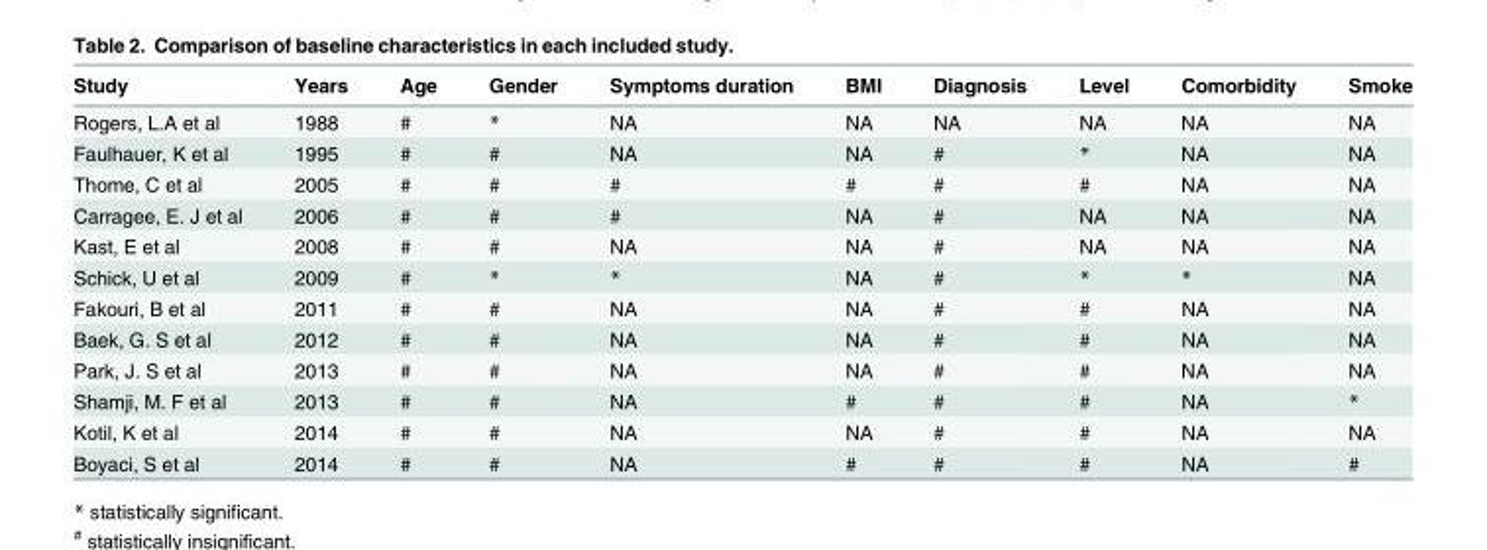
<table><thead><tr><td>Study</td><td>Years</td><td>Age</td><td>Gender</td><td>Symptoms duration</td><td>BMI</td><td>Diagnosis</td><td>Level</td><td>Comorbidity</td><td>Smoke</td></tr></thead><tbody><tr><td>Rogers, L.A et al</td><td>1988</td><td>#</td><td>*</td><td>NA</td><td>NA</td><td>NA</td><td>NA</td><td>NA</td><td>NA</td></tr><tr><td>Faulhauer, K et al</td><td>1995</td><td>#</td><td>#</td><td>NA</td><td>NA</td><td>#</td><td>*</td><td>NA</td><td>NA</td></tr><tr><td>Thome, C et al</td><td>2005</td><td>#</td><td>#</td><td>#</td><td>#</td><td>#</td><td>#</td><td>NA</td><td>NA</td></tr><tr><td>Carragee, E. J et al</td><td>2006</td><td>#</td><td>#</td><td>#</td><td>NA</td><td>#</td><td>NA</td><td>NA</td><td>NA</td></tr><tr><td>Kast, E et al</td><td>2008</td><td>#</td><td>#</td><td>NA</td><td>NA</td><td>#</td><td>NA</td><td>NA</td><td>NA</td></tr><tr><td>Schick, U et al</td><td>2009</td><td>#</td><td>*</td><td>*</td><td>NA</td><td>#</td><td>*</td><td>*</td><td>NA</td></tr><tr><td>Fakouri, B et al</td><td>2011</td><td>#</td><td>#</td><td>NA</td><td>NA</td><td>#</td><td>#</td><td>NA</td><td>NA</td></tr><tr><td>Baek, G. S et al</td><td>2012</td><td>#</td><td>#</td><td>NA</td><td>NA</td><td>#</td><td>#</td><td>NA</td><td>NA</td></tr><tr><td>Park, J. S et al</td><td>2013</td><td>#</td><td>#</td><td>NA</td><td>NA</td><td>#</td><td>#</td><td>NA</td><td>NA</td></tr><tr><td>Shamji, M. F et al</td><td>2013</td><td>#</td><td>#</td><td>NA</td><td>#</td><td>#</td><td>#</td><td>NA</td><td>*</td></tr><tr><td>Kotil, K et al</td><td>2014</td><td>#</td><td>#</td><td>NA</td><td>NA</td><td>#</td><td>#</td><td>NA</td><td>NA</td></tr><tr><td>Boyaci, S et al</td><td>2014</td><td>#</td><td>#</td><td>NA</td><td>#</td><td>#</td><td>#</td><td>NA</td><td>#</td></tr></tbody></table>